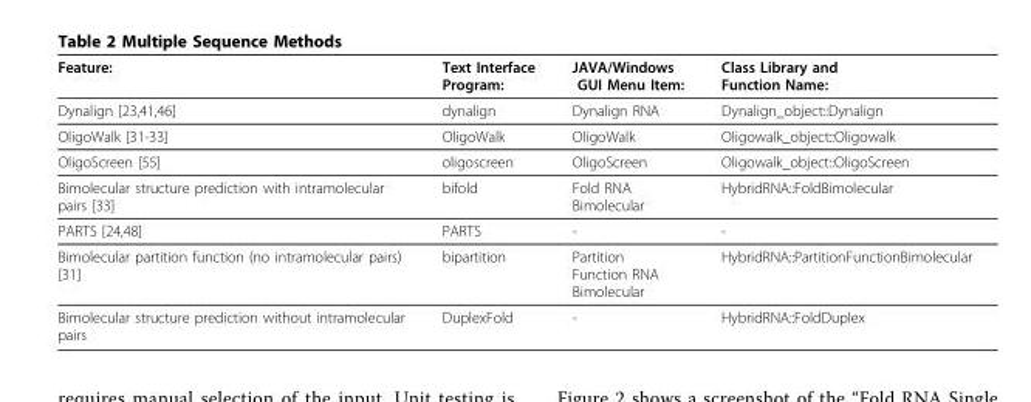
<table><thead><tr><td>Feature:</td><td>Text Interface Program:</td><td>JAVA/Windows GUI Menu Item:</td><td>Class Library and Function Name:</td></tr></thead><tbody><tr><td>Dynalign [23,41,46]</td><td>dynalign</td><td>Dynalign RNA</td><td>Dynalign_object::Dynalign</td></tr><tr><td>OligoWalk [31-33]</td><td>OligoWalk</td><td>OligoWalk</td><td>Oligowalk_object::Oligowalk</td></tr><tr><td>OligoScreen [55]</td><td>oligoscreen</td><td>OligoScreen</td><td>Oligowalk_object::OligoScreen</td></tr><tr><td>Bimolecular structure prediction with intramolecular pairs [33]</td><td>bifold</td><td>Fold RNA Bimolecular</td><td>HybridRNA::FoldBimolecular</td></tr><tr><td>PARTS [24,48]</td><td>PARTS</td><td>-</td><td>-</td></tr><tr><td>Bimolecular partition function (no intramolecular pairs) [31]</td><td>bipartition</td><td>Partition Function RNA Bimolecular</td><td>HybridRNA::PartitionFunctionBimolecular</td></tr><tr><td>Bimolecular structure prediction without intramolecular pairs</td><td>DuplexFold</td><td>-</td><td>HybridRNA::FoldDuplex</td></tr></tbody></table>